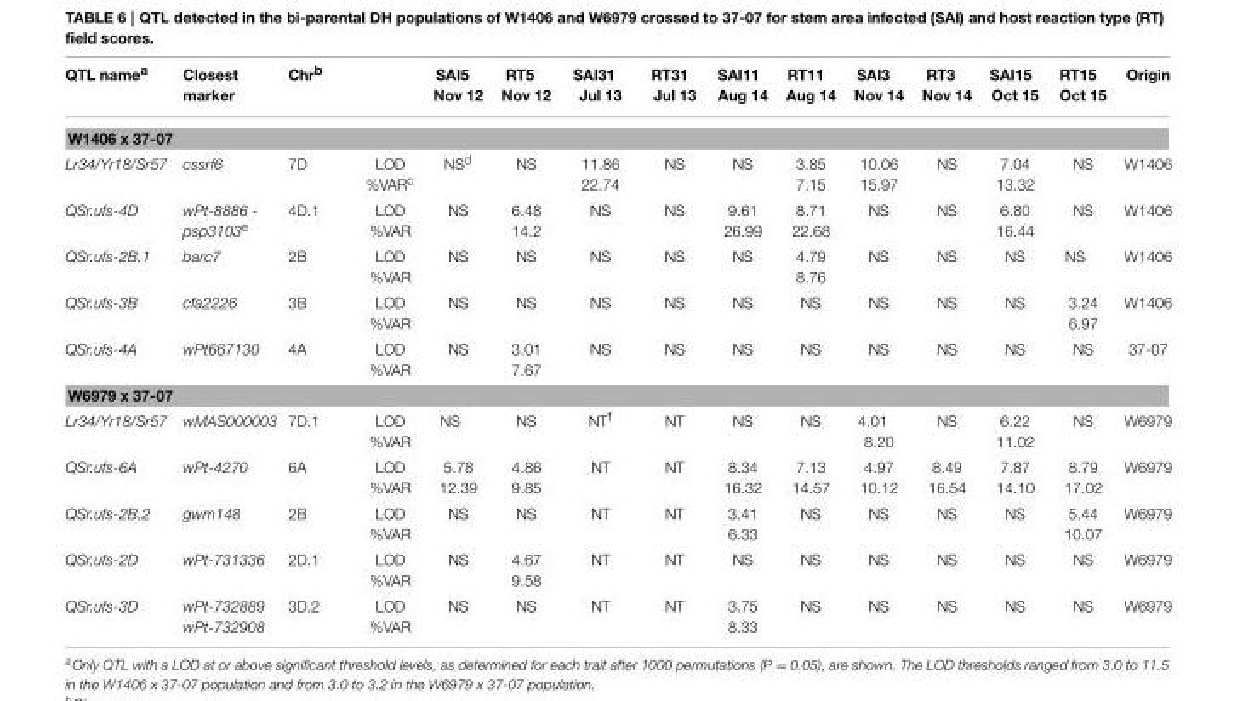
<table><thead><tr><td>QTL name<sup>a</sup></td><td>Closest marker</td><td>Chr<sup>b</sup></td><td></td><td>SAI5 Nov 12</td><td>RT5 Nov 12</td><td>SAI31 Jul 13</td><td>RT31 Jul 13</td><td>SAI11 Aug 14</td><td>RT11 Aug 14</td><td>SAI3 Nov 14</td><td>RT3 Nov 14</td><td>SAI15 Oct 15</td><td>RT15 Oct 15</td><td>Origin</td></tr></thead><tbody><tr><td colspan="15">W1406 x 37-07</td></tr><tr><td>Lr34/Yr18/Sr57</td><td>cssrf6</td><td>7D</td><td>LOD %VAR<sup>c</sup></td><td>NS<sup>d</sup></td><td>NS</td><td>11.86 22.74</td><td>NS</td><td>NS</td><td>3.85 7.15</td><td>10.06 15.97</td><td>NS</td><td>7.04 13.32</td><td>NS</td><td>W1406</td></tr><tr><td>QSr.ufs-4D</td><td>wPt-8886 - psp3103<sup>e</sup></td><td>4D.1</td><td>LOD %VAR</td><td>NS</td><td>6.48 14.2</td><td>NS</td><td>NS</td><td>9.61 26.99</td><td>8.71 22.68</td><td>NS</td><td>NS</td><td>6.80 16.44</td><td>NS</td><td>W1406</td></tr><tr><td>QSr.ufs-2B.1</td><td>barc7</td><td>2B</td><td>LOD %VAR</td><td>NS</td><td>NS</td><td>NS</td><td>NS</td><td>NS</td><td>4.79 8.76</td><td>NS</td><td>NS</td><td>NS</td><td>NS</td><td>W1406</td></tr><tr><td>QSr.ufs-3B</td><td>cfa2226</td><td>3B</td><td>LOD %VAR</td><td>NS</td><td>NS</td><td>NS</td><td>NS</td><td>NS</td><td>NS</td><td>NS</td><td>NS</td><td>NS</td><td>3.24 6.97</td><td>W1406</td></tr><tr><td>QSr.ufs-4A</td><td>wPt667130</td><td>4A</td><td>LOD %VAR</td><td>NS</td><td>3.01 7.67</td><td>NS</td><td>NS</td><td>NS</td><td>NS</td><td>NS</td><td>NS</td><td>NS</td><td>NS</td><td>37-07</td></tr><tr><td colspan="15">W6979 x 37-07</td></tr><tr><td>Lr34/Yr18/Sr57</td><td>wMAS000003</td><td>7D.1</td><td>LOD %VAR</td><td>NS</td><td>NS</td><td>NT<sup>f</sup></td><td>NT</td><td>NS</td><td>NS</td><td>4.01 8.20</td><td>NS</td><td>6.22 11.02</td><td>NS</td><td>W6979</td></tr><tr><td>QSr.ufs-6A</td><td>wPt-4270</td><td>6A</td><td>LOD %VAR</td><td>5.78 12.39</td><td>4.86 9.85</td><td>NT</td><td>NT</td><td>8.34 16.32</td><td>7.13 14.57</td><td>4.97 10.12</td><td>8.49 16.54</td><td>7.87 14.10</td><td>8.79 17.02</td><td>W6979</td></tr><tr><td>QSr.ufs-2B.2</td><td>gwm148</td><td>2B</td><td>LOD %VAR</td><td>NS</td><td>NS</td><td>NT</td><td>NT</td><td>3.41 6.33</td><td>NS</td><td>NS</td><td>NS</td><td>NS</td><td>5.44 10.07</td><td>W6979</td></tr><tr><td>QSr.ufs-2D</td><td>wPt-731336</td><td>2D.1</td><td>LOD %VAR</td><td>NS</td><td>4.67 9.58</td><td>NT</td><td>NT</td><td>NS</td><td>NS</td><td>NS</td><td>NS</td><td>NS</td><td>NS</td><td>W6979</td></tr><tr><td>QSr.ufs-3D</td><td>wPt-732889 wPt-732908</td><td>3D.2</td><td>LOD %VAR</td><td>NS</td><td>NS</td><td>NT</td><td>NT</td><td>3.75 8.33</td><td>NS</td><td>NS</td><td>NS</td><td>NS</td><td>NS</td><td>W6979</td></tr></tbody></table>